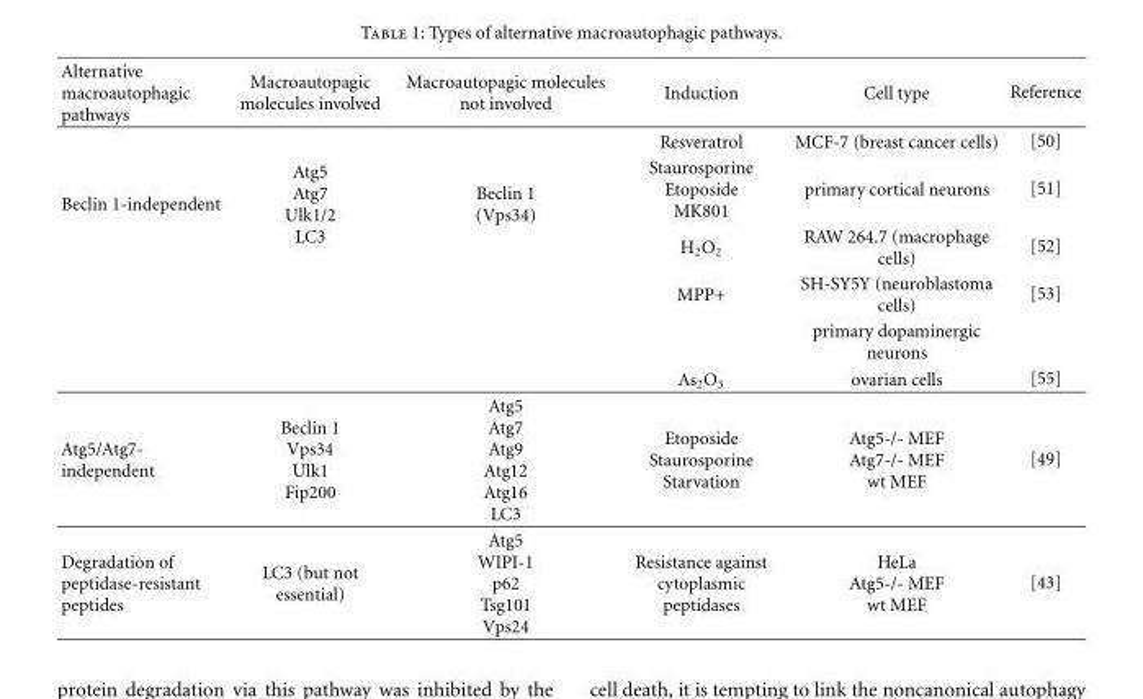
<table><thead><tr><td>Alternative macroautophagic pathways</td><td>Macroautopagic molecules involved</td><td>Macroautopagic molecules not involved</td><td>Induction</td><td>Cell type</td><td>Reference</td></tr></thead><tbody><tr><td rowspan="6">Beclin 1-independent</td><td rowspan="6">Atg5 Atg7 Ulk1/2 LC3</td><td rowspan="6">Beclin 1 (Vps34)</td><td>Resveratrol</td><td>MCF-7 (breast cancer cells)</td><td>[50]</td></tr><tr><td>Staurosporine Etoposide MK801</td><td>primary cortical neurons</td><td>[51]</td></tr><tr><td>H<sub>2</sub>O<sub>2</sub></td><td>RAW 264.7 (macrophage cells)</td><td>[52]</td></tr><tr><td>MPP+</td><td>SH-SY5Y (neuroblastoma cells)</td><td>[53]</td></tr><tr><td></td><td>primary dopaminergic neurons</td><td></td></tr><tr><td>As<sub>2</sub>O<sub>3</sub></td><td>ovarian cells</td><td>[55]</td></tr><tr><td>Atg5/Atg7- independent</td><td>Beclin 1 Vps34 Ulk1 Fip200</td><td>Atg5 Atg7 Atg9 Atg12 Atg16 LC3</td><td>Etoposide Staurosporine Starvation</td><td>Atg5-/- MEF Atg7-/- MEF wt MEF</td><td>[49]</td></tr><tr><td>Degradation of peptidase-resistant peptides</td><td>LC3 (but not essential)</td><td>Atg5 WIPI-1 p62 Tsg101 Vps24</td><td>Resistance against cytoplasmic peptidases</td><td>HeLa Atg5-/- MEF wt MEF</td><td>[43]</td></tr></tbody></table>